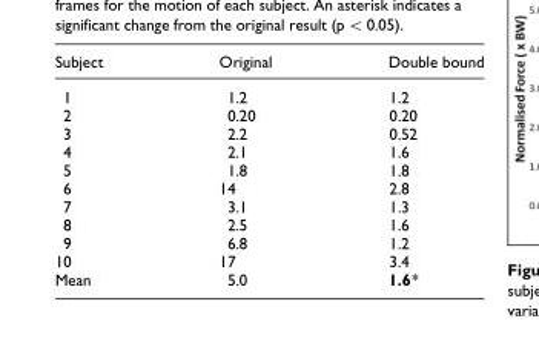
<table><thead><tr><td>Subject</td><td>Original</td><td>Double bound</td></tr></thead><tbody><tr><td>1</td><td>1.2</td><td>1.2</td></tr><tr><td>2</td><td>0.20</td><td>0.20</td></tr><tr><td>3</td><td>2.2</td><td>0.52</td></tr><tr><td>4</td><td>2.1</td><td>1.6</td></tr><tr><td>5</td><td>1.8</td><td>1.8</td></tr><tr><td>6</td><td>14</td><td>2.8</td></tr><tr><td>7</td><td>3.1</td><td>1.3</td></tr><tr><td>8</td><td>2.5</td><td>1.6</td></tr><tr><td>9</td><td>6.8</td><td>1.2</td></tr><tr><td>10</td><td>17</td><td>3.4</td></tr><tr><td>Mean</td><td>5.0</td><td>1.6*</td></tr></tbody></table>